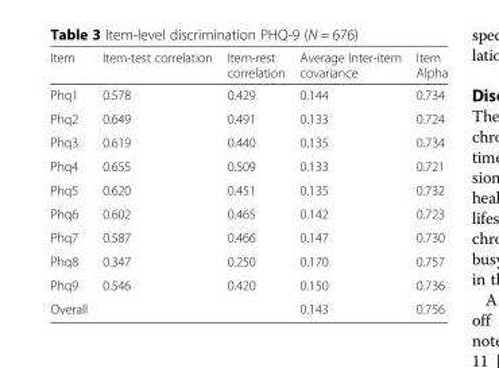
<table><thead><tr><td>Item</td><td>Item-test correlation</td><td>Item-rest correlation</td><td>Average Inter-item covariance</td><td>Item Alpha</td></tr></thead><tbody><tr><td>Phq1</td><td>0.578</td><td>0.429</td><td>0.144</td><td>0.734</td></tr><tr><td>Phq2</td><td>0.649</td><td>0.491</td><td>0.133</td><td>0.724</td></tr><tr><td>Phq3</td><td>0.619</td><td>0.440</td><td>0.135</td><td>0.734</td></tr><tr><td>Phq4</td><td>0.655</td><td>0.509</td><td>0.133</td><td>0.721</td></tr><tr><td>Phq5</td><td>0.620</td><td>0.451</td><td>0.135</td><td>0.732</td></tr><tr><td>Phq6</td><td>0.602</td><td>0.465</td><td>0.142</td><td>0.723</td></tr><tr><td>Phq7</td><td>0.587</td><td>0.466</td><td>0.147</td><td>0.730</td></tr><tr><td>Phq8</td><td>0.347</td><td>0.250</td><td>0.170</td><td>0.757</td></tr><tr><td>Phq9</td><td>0.546</td><td>0.420</td><td>0.150</td><td>0.736</td></tr><tr><td>Overall</td><td></td><td></td><td>0.143</td><td>0.756</td></tr></tbody></table>